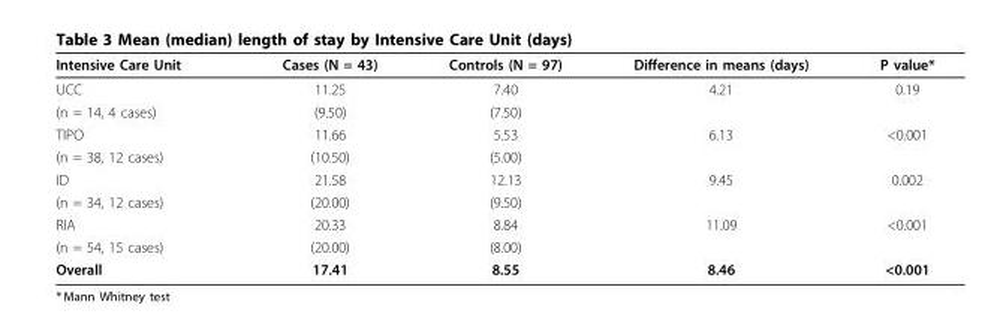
<table><thead><tr><td>Intensive Care Unit</td><td>Cases (N = 43)</td><td>Controls (N = 97)</td><td>Difference in means (days)</td><td>P value*</td></tr></thead><tbody><tr><td>UCC</td><td>11.25</td><td>7.40</td><td>4.21</td><td>0.19</td></tr><tr><td>(n = 14, 4 cases)</td><td>(9.50)</td><td>(7.50)</td><td></td><td></td></tr><tr><td>TIPO</td><td>11.66</td><td>5.53</td><td>6.13</td><td>&lt;0.001</td></tr><tr><td>(n = 38, 12 cases)</td><td>(10.50)</td><td>(5.00)</td><td></td><td></td></tr><tr><td>ID</td><td>21.58</td><td>12.13</td><td>9.45</td><td>0.002</td></tr><tr><td>(n = 34, 12 cases)</td><td>(20.00)</td><td>(9.50)</td><td></td><td></td></tr><tr><td>RIA</td><td>20.33</td><td>8.84</td><td>11.09</td><td>&lt;0.001</td></tr><tr><td>(n = 54, 15 cases)</td><td>(20.00)</td><td>(8.00)</td><td></td><td></td></tr><tr><td>Overall</td><td>17.41</td><td>8.55</td><td>8.46</td><td>&lt;0.001</td></tr></tbody></table>